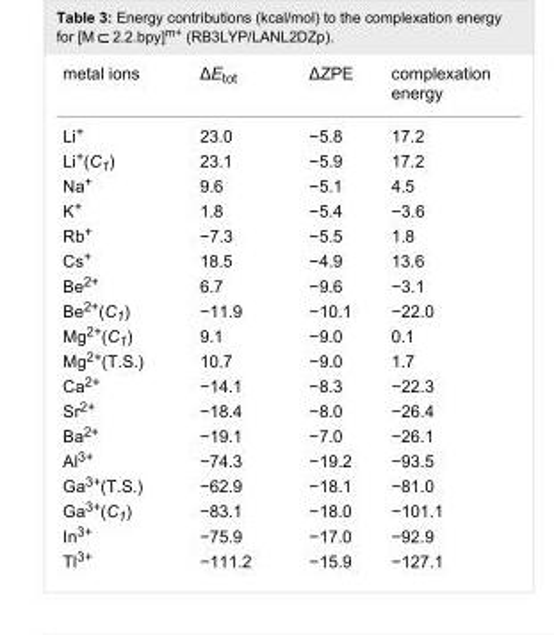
<table><tbody><tr><td>metal ions</td><td>ΔE<sub>tot</sub></td><td>ΔZPE</td><td>complexation energy</td></tr><tr><td>Li<sup>+</sup></td><td>23.0</td><td>−5.8</td><td>17.2</td></tr><tr><td>Li<sup>+</sup>(C<sub>1</sub>)</td><td>23.1</td><td>−5.9</td><td>17.2</td></tr><tr><td>Na<sup>+</sup></td><td>9.6</td><td>−5.1</td><td>4.5</td></tr><tr><td>K<sup>+</sup></td><td>1.8</td><td>−5.4</td><td>−3.6</td></tr><tr><td>Rb<sup>+</sup></td><td>−7.3</td><td>−5.5</td><td>1.8</td></tr><tr><td>Cs<sup>+</sup></td><td>18.5</td><td>−4.9</td><td>13.6</td></tr><tr><td>Be<sup>2+</sup></td><td>6.7</td><td>−9.6</td><td>−3.1</td></tr><tr><td>Be<sup>2+</sup>(C<sub>1</sub>)</td><td>−11.9</td><td>−10.1</td><td>−22.0</td></tr><tr><td>Mg<sup>2+</sup>(C<sub>1</sub>)</td><td>9.1</td><td>−9.0</td><td>0.1</td></tr><tr><td>Mg<sup>2+</sup>(T.S.)</td><td>10.7</td><td>−9.0</td><td>1.7</td></tr><tr><td>Ca<sup>2+</sup></td><td>−14.1</td><td>−8.3</td><td>−22.3</td></tr><tr><td>Sr<sup>2+</sup></td><td>−18.4</td><td>−8.0</td><td>−26.4</td></tr><tr><td>Ba<sup>2+</sup></td><td>−19.1</td><td>−7.0</td><td>−26.1</td></tr><tr><td>Al<sup>3+</sup></td><td>−74.3</td><td>−19.2</td><td>−93.5</td></tr><tr><td>Ga<sup>3+</sup>(T.S.)</td><td>−62.9</td><td>−18.1</td><td>−81.0</td></tr><tr><td>Ga<sup>3+</sup>(C<sub>1</sub>)</td><td>−83.1</td><td>−18.0</td><td>−101.1</td></tr><tr><td>In<sup>3+</sup></td><td>−75.9</td><td>−17.0</td><td>−92.9</td></tr><tr><td>Tl<sup>3+</sup></td><td>−111.2</td><td>−15.9</td><td>−127.1</td></tr></tbody></table>